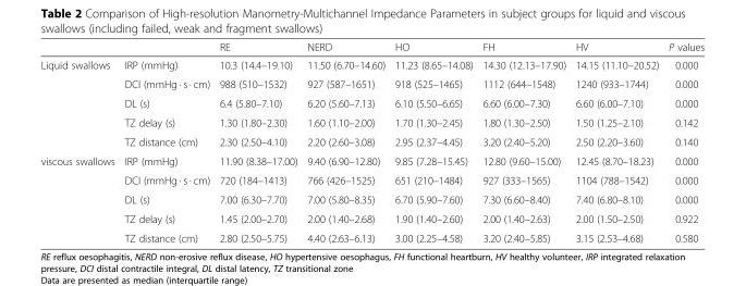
<table><thead><tr><td></td><td></td><td>RE</td><td>NERD</td><td>HO</td><td>FH</td><td>HV</td><td>P values</td></tr></thead><tbody><tr><td rowspan="5">Liquid swallows</td><td>IRP (mmHg)</td><td>10.3 (14.4–19.10)</td><td>11.50 (6.70–14.60)</td><td>11.23 (8.65–14.08)</td><td>14.30 (12.13–17.90)</td><td>14.15 (11.10–20.52)</td><td>0.000</td></tr><tr><td>DCI (mmHg · s · cm)</td><td>988 (510–1532)</td><td>927 (587–1651)</td><td>918 (525–1465)</td><td>1112 (644–1548)</td><td>1240 (933–1744)</td><td>0.000</td></tr><tr><td>DL (s)</td><td>6.4 (5.80–7.10)</td><td>6.20 (5.60–7.13)</td><td>6.10 (5.50–6.65)</td><td>6.60 (6.00–7.30)</td><td>6.60 (6.00–7.10)</td><td>0.000</td></tr><tr><td>TZ delay (s)</td><td>1.30 (1.80–2.30)</td><td>1.60 (1.10–2.00)</td><td>1.70 (1.30–2.45)</td><td>1.80 (1.30–2.50)</td><td>1.50 (1.25–2.10)</td><td>0.142</td></tr><tr><td>TZ distance (cm)</td><td>2.30 (2.50–4.10)</td><td>2.20 (2.60–3.08)</td><td>2.95 (2.37–4.45)</td><td>3.20 (2.40–5.20)</td><td>2.50 (2.20–3.60)</td><td>0.140</td></tr><tr><td rowspan="5">viscous swallows</td><td>IRP (mmHg)</td><td>11.90 (8.38–17.00)</td><td>9.40 (6.90–12.80)</td><td>9.85 (7.28–15.45)</td><td>12.80 (9.60–15.00)</td><td>12.45 (8.70–18.23)</td><td>0.000</td></tr><tr><td>DCI (mmHg · s · cm)</td><td>720 (184–1413)</td><td>766 (426–1525)</td><td>651 (210–1484)</td><td>927 (333–1565)</td><td>1104 (788–1542)</td><td>0.000</td></tr><tr><td>DL (s)</td><td>7.00 (6.30–7.70)</td><td>7.00 (5.80–8.35)</td><td>6.70 (5.90–7.60)</td><td>7.30 (6.60–8.40)</td><td>7.40 (6.80–8.10)</td><td>0.000</td></tr><tr><td>TZ delay (s)</td><td>1.45 (2.00–2.70)</td><td>2.00 (1.40–2.68)</td><td>1.90 (1.40–2.60)</td><td>2.00 (1.40–2.63)</td><td>2.00 (1.50–2.50)</td><td>0.922</td></tr><tr><td>TZ distance (cm)</td><td>2.80 (2.50–5.75)</td><td>4.40 (2.63–6.13)</td><td>3.00 (2.25–4.58)</td><td>3.20 (2.40–5.85)</td><td>3.15 (2.53–4.68)</td><td>0.580</td></tr></tbody></table>